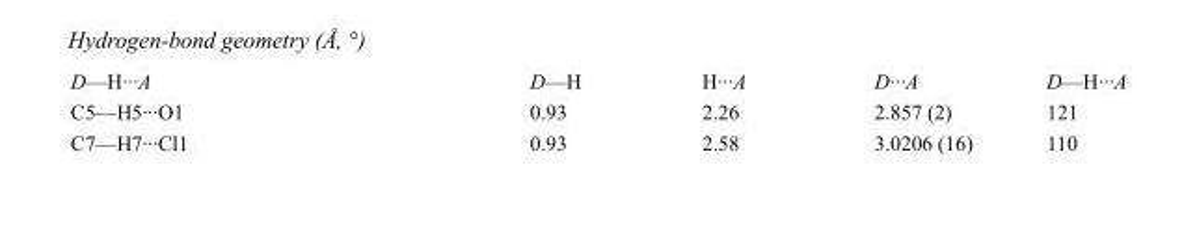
<table><tbody><tr><td>D—H···A</td><td>D—H</td><td>H···A</td><td>D···A</td><td>D—H···A</td></tr><tr><td>C5—H5···O1</td><td>0.93</td><td>2.26</td><td>2.857 (2)</td><td>121</td></tr><tr><td>C7—H7···Cl1</td><td>0.93</td><td>2.58</td><td>3.0206 (16)</td><td>110</td></tr></tbody></table>